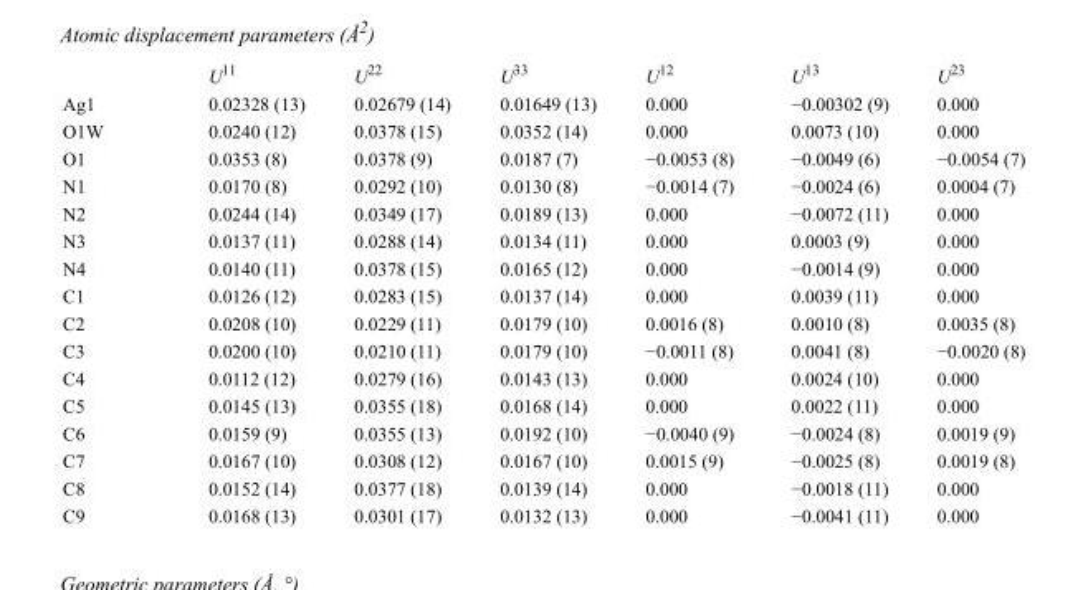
<table><thead><tr><td></td><td>U<sup>11</sup></td><td>U<sup>22</sup></td><td>U<sup>33</sup></td><td>U<sup>12</sup></td><td>U<sup>13</sup></td><td>U<sup>23</sup></td></tr></thead><tbody><tr><td>Ag1</td><td>0.02328 (13)</td><td>0.02679 (14)</td><td>0.01649 (13)</td><td>0.000</td><td>−0.00302 (9)</td><td>0.000</td></tr><tr><td>O1W</td><td>0.0240 (12)</td><td>0.0378 (15)</td><td>0.0352 (14)</td><td>0.000</td><td>0.0073 (10)</td><td>0.000</td></tr><tr><td>O1</td><td>0.0353 (8)</td><td>0.0378 (9)</td><td>0.0187 (7)</td><td>−0.0053 (8)</td><td>−0.0049 (6)</td><td>−0.0054 (7)</td></tr><tr><td>N1</td><td>0.0170 (8)</td><td>0.0292 (10)</td><td>0.0130 (8)</td><td>−0.0014 (7)</td><td>−0.0024 (6)</td><td>0.0004 (7)</td></tr><tr><td>N2</td><td>0.0244 (14)</td><td>0.0349 (17)</td><td>0.0189 (13)</td><td>0.000</td><td>−0.0072 (11)</td><td>0.000</td></tr><tr><td>N3</td><td>0.0137 (11)</td><td>0.0288 (14)</td><td>0.0134 (11)</td><td>0.000</td><td>0.0003 (9)</td><td>0.000</td></tr><tr><td>N4</td><td>0.0140 (11)</td><td>0.0378 (15)</td><td>0.0165 (12)</td><td>0.000</td><td>−0.0014 (9)</td><td>0.000</td></tr><tr><td>C1</td><td>0.0126 (12)</td><td>0.0283 (15)</td><td>0.0137 (14)</td><td>0.000</td><td>0.0039 (11)</td><td>0.000</td></tr><tr><td>C2</td><td>0.0208 (10)</td><td>0.0229 (11)</td><td>0.0179 (10)</td><td>0.0016 (8)</td><td>0.0010 (8)</td><td>0.0035 (8)</td></tr><tr><td>C3</td><td>0.0200 (10)</td><td>0.0210 (11)</td><td>0.0179 (10)</td><td>−0.0011 (8)</td><td>0.0041 (8)</td><td>−0.0020 (8)</td></tr><tr><td>C4</td><td>0.0112 (12)</td><td>0.0279 (16)</td><td>0.0143 (13)</td><td>0.000</td><td>0.0024 (10)</td><td>0.000</td></tr><tr><td>C5</td><td>0.0145 (13)</td><td>0.0355 (18)</td><td>0.0168 (14)</td><td>0.000</td><td>0.0022 (11)</td><td>0.000</td></tr><tr><td>C6</td><td>0.0159 (9)</td><td>0.0355 (13)</td><td>0.0192 (10)</td><td>−0.0040 (9)</td><td>−0.0024 (8)</td><td>0.0019 (9)</td></tr><tr><td>C7</td><td>0.0167 (10)</td><td>0.0308 (12)</td><td>0.0167 (10)</td><td>0.0015 (9)</td><td>−0.0025 (8)</td><td>0.0019 (8)</td></tr><tr><td>C8</td><td>0.0152 (14)</td><td>0.0377 (18)</td><td>0.0139 (14)</td><td>0.000</td><td>−0.0018 (11)</td><td>0.000</td></tr><tr><td>C9</td><td>0.0168 (13)</td><td>0.0301 (17)</td><td>0.0132 (13)</td><td>0.000</td><td>−0.0041 (11)</td><td>0.000</td></tr></tbody></table>